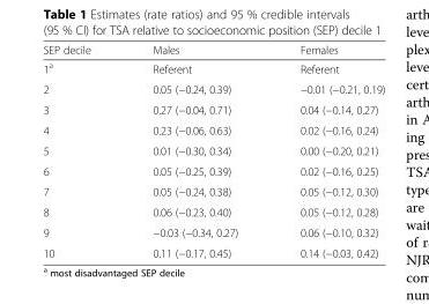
<table><thead><tr><td>SEP decile</td><td>Males</td><td>Females</td></tr></thead><tbody><tr><td>1<sup>a</sup></td><td>Referent</td><td>Referent</td></tr><tr><td>2</td><td>0.05 (−0.24, 0.39)</td><td>−0.01 (−0.21, 0.19)</td></tr><tr><td>3</td><td>0.27 (−0.04, 0.71)</td><td>0.04 (−0.14, 0.27)</td></tr><tr><td>4</td><td>0.23 (−0.06, 0.63)</td><td>0.02 (−0.16, 0.24)</td></tr><tr><td>5</td><td>0.01 (−0.30, 0.34)</td><td>0.00 (−0.20, 0.21)</td></tr><tr><td>6</td><td>0.05 (−0.25, 0.39)</td><td>0.02 (−0.16, 0.25)</td></tr><tr><td>7</td><td>0.05 (−0.24, 0.38)</td><td>0.05 (−0.12, 0.30)</td></tr><tr><td>8</td><td>0.06 (−0.23, 0.40)</td><td>0.05 (−0.12, 0.28)</td></tr><tr><td>9</td><td>−0.03 (−0.34, 0.27)</td><td>0.06 (−0.10, 0.32)</td></tr><tr><td>10</td><td>0.11 (−0.17, 0.45)</td><td>0.14 (−0.03, 0.42)</td></tr></tbody></table>